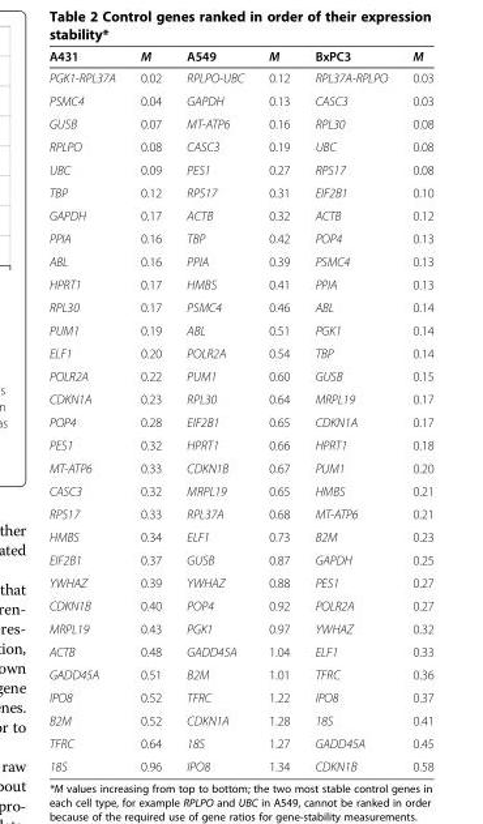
<table><thead><tr><td>A431</td><td>M</td><td>A549</td><td>M</td><td>BxPC3</td><td>M</td></tr></thead><tbody><tr><td>PGK1-RPL37A</td><td>0.02</td><td>RPLPO-UBC</td><td>0.12</td><td>RPL37A-RPLPO</td><td>0.03</td></tr><tr><td>PSMC4</td><td>0.04</td><td>GAPDH</td><td>0.13</td><td>CASC3</td><td>0.03</td></tr><tr><td>GUSB</td><td>0.07</td><td>MT-ATP6</td><td>0.16</td><td>RPL30</td><td>0.08</td></tr><tr><td>RPLPO</td><td>0.08</td><td>CASC3</td><td>0.19</td><td>UBC</td><td>0.08</td></tr><tr><td>UBC</td><td>0.09</td><td>PES1</td><td>0.27</td><td>RPS17</td><td>0.08</td></tr><tr><td>TBP</td><td>0.12</td><td>RPS17</td><td>0.31</td><td>EIF2B1</td><td>0.10</td></tr><tr><td>GAPDH</td><td>0.17</td><td>ACTB</td><td>0.32</td><td>ACTB</td><td>0.12</td></tr><tr><td>PPIA</td><td>0.16</td><td>TBP</td><td>0.42</td><td>POP4</td><td>0.13</td></tr><tr><td>ABL</td><td>0.16</td><td>PPIA</td><td>0.39</td><td>PSMC4</td><td>0.13</td></tr><tr><td>HPRT1</td><td>0.17</td><td>HMBS</td><td>0.41</td><td>PPIA</td><td>0.13</td></tr><tr><td>RPL30</td><td>0.17</td><td>PSMC4</td><td>0.46</td><td>ABL</td><td>0.14</td></tr><tr><td>PUM1</td><td>0.19</td><td>ABL</td><td>0.51</td><td>PGK1</td><td>0.14</td></tr><tr><td>ELF1</td><td>0.20</td><td>POLR2A</td><td>0.54</td><td>TBP</td><td>0.14</td></tr><tr><td>POLR2A</td><td>0.22</td><td>PUM1</td><td>0.60</td><td>GUSB</td><td>0.15</td></tr><tr><td>CDKN1A</td><td>0.23</td><td>RPL30</td><td>0.64</td><td>MRPL19</td><td>0.17</td></tr><tr><td>POP4</td><td>0.28</td><td>EIF2B1</td><td>0.65</td><td>CDKN1A</td><td>0.17</td></tr><tr><td>PES1</td><td>0.32</td><td>HPRT1</td><td>0.66</td><td>HPRT1</td><td>0.18</td></tr><tr><td>MT-ATP6</td><td>0.33</td><td>CDKN1B</td><td>0.67</td><td>PUM1</td><td>0.20</td></tr><tr><td>CASC3</td><td>0.32</td><td>MRPL19</td><td>0.65</td><td>HMBS</td><td>0.21</td></tr><tr><td>RPS17</td><td>0.33</td><td>RPL37A</td><td>0.68</td><td>MT-ATP6</td><td>0.21</td></tr><tr><td>HMBS</td><td>0.34</td><td>ELF1</td><td>0.73</td><td>B2M</td><td>0.23</td></tr><tr><td>EIF2B1</td><td>0.37</td><td>GUSB</td><td>0.87</td><td>GAPDH</td><td>0.25</td></tr><tr><td>YWHAZ</td><td>0.39</td><td>YWHAZ</td><td>0.88</td><td>PES1</td><td>0.27</td></tr><tr><td>CDKN1B</td><td>0.40</td><td>POP4</td><td>0.92</td><td>POLR2A</td><td>0.27</td></tr><tr><td>MRPL19</td><td>0.43</td><td>PGK1</td><td>0.97</td><td>YWHAZ</td><td>0.32</td></tr><tr><td>ACTB</td><td>0.48</td><td>GADD45A</td><td>1.04</td><td>ELF1</td><td>0.33</td></tr><tr><td>GADD45A</td><td>0.51</td><td>B2M</td><td>1.01</td><td>TFRC</td><td>0.36</td></tr><tr><td>IPO8</td><td>0.52</td><td>TFRC</td><td>1.22</td><td>IPO8</td><td>0.37</td></tr><tr><td>B2M</td><td>0.52</td><td>CDKN1A</td><td>1.28</td><td>18S</td><td>0.41</td></tr><tr><td>TFRC</td><td>0.64</td><td>18S</td><td>1.27</td><td>GADD45A</td><td>0.45</td></tr><tr><td>18S</td><td>0.96</td><td>IPO8</td><td>1.34</td><td>CDKN1B</td><td>0.58</td></tr></tbody></table>